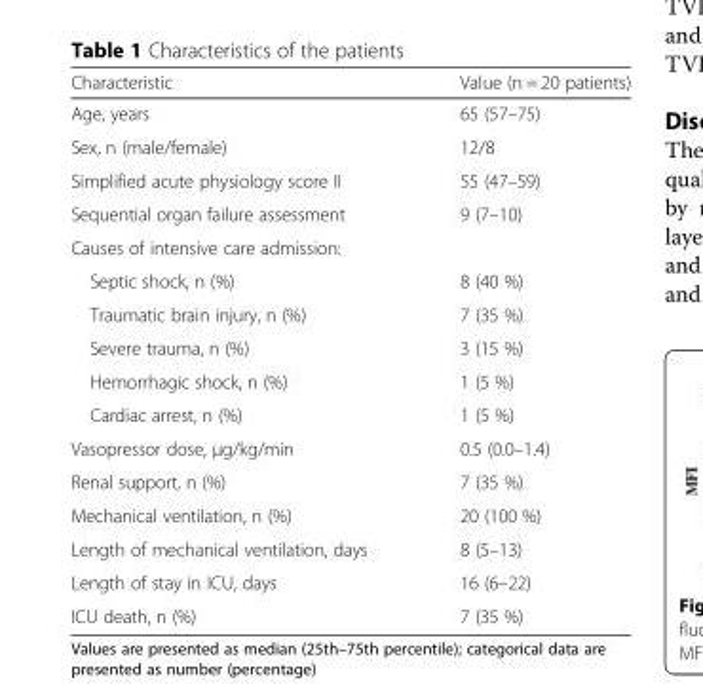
<table><thead><tr><td>Characteristic</td><td>Value (n = 20 patients)</td></tr></thead><tbody><tr><td>Age, years</td><td>65 (57–75)</td></tr><tr><td>Sex, n (male/female)</td><td>12/8</td></tr><tr><td>Simplified acute physiology score II</td><td>55 (47–59)</td></tr><tr><td>Sequential organ failure assessment</td><td>9 (7–10)</td></tr><tr><td colspan="2">Causes of intensive care admission:</td></tr><tr><td>Septic shock, n (%)</td><td>8 (40 %)</td></tr><tr><td>Traumatic brain injury, n (%)</td><td>7 (35 %)</td></tr><tr><td>Severe trauma, n (%)</td><td>3 (15 %)</td></tr><tr><td>Hemorrhagic shock, n (%)</td><td>1 (5 %)</td></tr><tr><td>Cardiac arrest, n (%)</td><td>1 (5 %)</td></tr><tr><td>Vasopressor dose, μg/kg/min</td><td>0.5 (0.0–1.4)</td></tr><tr><td>Renal support, n (%)</td><td>7 (35 %)</td></tr><tr><td>Mechanical ventilation, n (%)</td><td>20 (100 %)</td></tr><tr><td>Length of mechanical ventilation, days</td><td>8 (5–13)</td></tr><tr><td>Length of stay in ICU, days</td><td>16 (6–22)</td></tr><tr><td>ICU death, n (%)</td><td>7 (35 %)</td></tr></tbody></table>